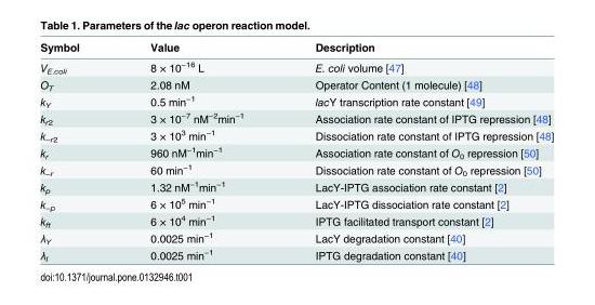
<table><thead><tr><td>Symbol</td><td>Value</td><td>Description</td></tr></thead><tbody><tr><td>V<sub>E.coli</sub></td><td>8 × 10<sup>−16</sup> L</td><td>E. coli volume [47]</td></tr><tr><td>O<sub>T</sub></td><td>2.08 nM</td><td>Operator Content (1 molecule) [48]</td></tr><tr><td>k<sub>Y</sub></td><td>0.5 min<sup>−1</sup></td><td>lacY transcription rate constant [49]</td></tr><tr><td>k<sub>r2</sub></td><td>3 × 10<sup>−7</sup> nM<sup>−2</sup>min<sup>−1</sup></td><td>Association rate constant of IPTG repression [48]</td></tr><tr><td>k<sub>−r2</sub></td><td>3 × 10<sup>3</sup> min<sup>−1</sup></td><td>Dissociation rate constant of IPTG repression [48]</td></tr><tr><td>k<sub>r</sub></td><td>960 nM<sup>−1</sup>min<sup>−1</sup></td><td>Association rate constant of O<sub>0</sub> repression [50]</td></tr><tr><td>k<sub>−r</sub></td><td>60 min<sup>−1</sup></td><td>Dissociation rate constant of O<sub>0</sub> repression [50]</td></tr><tr><td>k<sub>p</sub></td><td>1.32 nM<sup>−1</sup>min<sup>−1</sup></td><td>LacY-IPTG association rate constant [2]</td></tr><tr><td>k<sub>−p</sub></td><td>6 × 10<sup>5</sup> min<sup>−1</sup></td><td>LacY-IPTG dissociation rate constant [2]</td></tr><tr><td>k<sub>ft</sub></td><td>6 × 10<sup>4</sup> min<sup>−1</sup></td><td>IPTG facilitated transport constant [2]</td></tr><tr><td>λ<sub>Y</sub></td><td>0.0025 min<sup>−1</sup></td><td>LacY degradation constant [40]</td></tr><tr><td>λ<sub>I</sub></td><td>0.0025 min<sup>−1</sup></td><td>IPTG degradation constant [40]</td></tr></tbody></table>